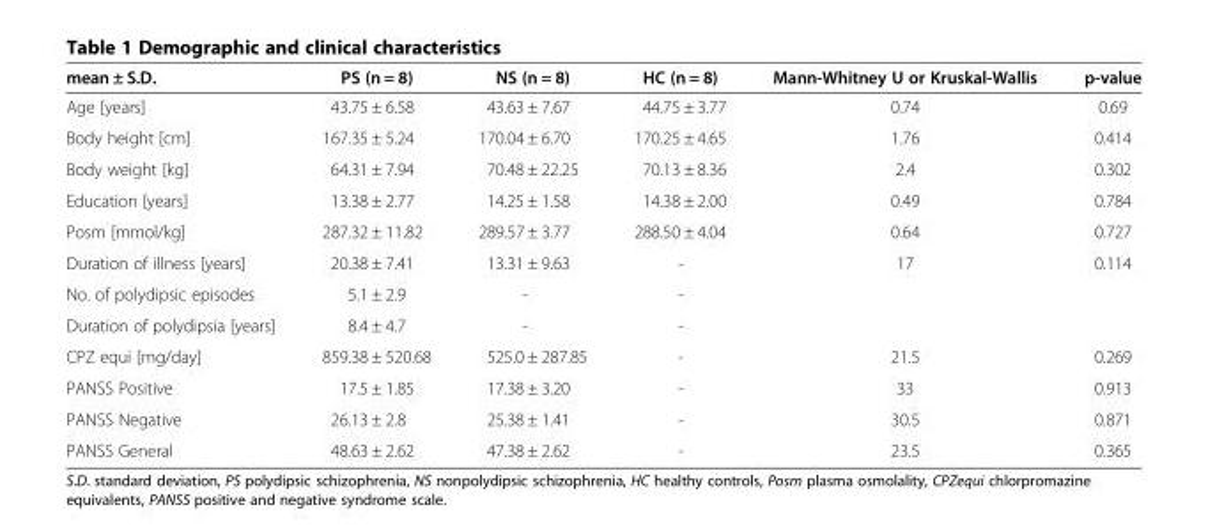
<table><thead><tr><td>mean ± S.D.</td><td>PS (n = 8)</td><td>NS (n = 8)</td><td>HC (n = 8)</td><td>Mann-Whitney U or Kruskal-Wallis</td><td>p-value</td></tr></thead><tbody><tr><td>Age [years]</td><td>43.75 ± 6.58</td><td>43.63 ± 7.67</td><td>44.75 ± 3.77</td><td>0.74</td><td>0.69</td></tr><tr><td>Body height [cm]</td><td>167.35 ± 5.24</td><td>170.04 ± 6.70</td><td>170.25 ± 4.65</td><td>1.76</td><td>0.414</td></tr><tr><td>Body weight [kg]</td><td>64.31 ± 7.94</td><td>70.48 ± 22.25</td><td>70.13 ± 8.36</td><td>2.4</td><td>0.302</td></tr><tr><td>Education [years]</td><td>13.38 ± 2.77</td><td>14.25 ± 1.58</td><td>14.38 ± 2.00</td><td>0.49</td><td>0.784</td></tr><tr><td>Posm [mmol/kg]</td><td>287.32 ± 11.82</td><td>289.57 ± 3.77</td><td>288.50 ± 4.04</td><td>0.64</td><td>0.727</td></tr><tr><td>Duration of illness [years]</td><td>20.38 ± 7.41</td><td>13.31 ± 9.63</td><td>-</td><td>17</td><td>0.114</td></tr><tr><td>No. of polydipsic episodes</td><td>5.1 ± 2.9</td><td>-</td><td>-</td><td></td><td></td></tr><tr><td>Duration of polydipsia [years]</td><td>8.4 ± 4.7</td><td>-</td><td>-</td><td></td><td></td></tr><tr><td>CPZ equi [mg/day]</td><td>859.38 ± 520.68</td><td>525.0 ± 287.85</td><td>-</td><td>21.5</td><td>0.269</td></tr><tr><td>PANSS Positive</td><td>17.5 ± 1.85</td><td>17.38 ± 3.20</td><td>-</td><td>33</td><td>0.913</td></tr><tr><td>PANSS Negative</td><td>26.13 ± 2.8</td><td>25.38 ± 1.41</td><td>-</td><td>30.5</td><td>0.871</td></tr><tr><td>PANSS General</td><td>48.63 ± 2.62</td><td>47.38 ± 2.62</td><td>-</td><td>23.5</td><td>0.365</td></tr></tbody></table>